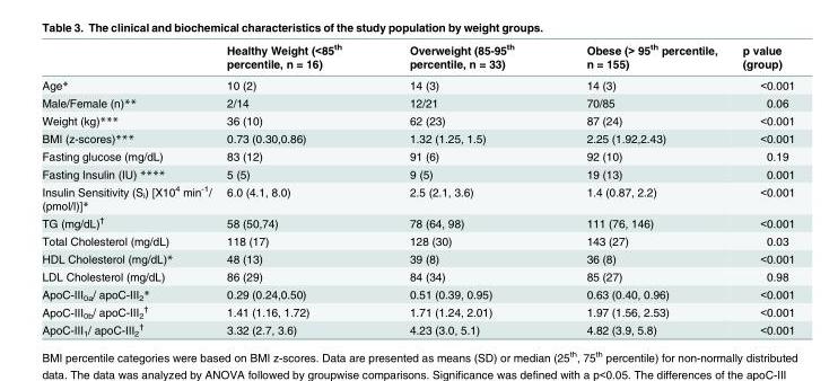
<table><thead><tr><td></td><td>Healthy Weight (&lt;85<sup>th</sup> percentile, n = 16)</td><td>Overweight (85-95<sup>th</sup> percentile, n = 33)</td><td>Obese (&gt; 95<sup>th</sup> percentile, n = 155)</td><td>p value (group)</td></tr></thead><tbody><tr><td>Age*</td><td>10 (2)</td><td>14 (3)</td><td>14 (3)</td><td>&lt;0.001</td></tr><tr><td>Male/Female (n)**</td><td>2/14</td><td>12/21</td><td>70/85</td><td>0.06</td></tr><tr><td>Weight (kg)***</td><td>36 (10)</td><td>62 (23)</td><td>87 (24)</td><td>&lt;0.001</td></tr><tr><td>BMI (z-scores)***</td><td>0.73 (0.30,0.86)</td><td>1.32 (1.25, 1.5)</td><td>2.25 (1.92,2.43)</td><td>&lt;0.001</td></tr><tr><td>Fasting glucose (mg/dL)</td><td>83 (12)</td><td>91 (6)</td><td>92 (10)</td><td>0.19</td></tr><tr><td>Fasting Insulin (IU) ****</td><td>5 (5)</td><td>9 (5)</td><td>19 (13)</td><td>0.001</td></tr><tr><td>Insulin Sensitivity (S<sub>i</sub>) [X10<sup>4</sup> min<sup>-1</sup>/ (pmol/l)]*</td><td>6.0 (4.1, 8.0)</td><td>2.5 (2.1, 3.6)</td><td>1.4 (0.87, 2.2)</td><td>&lt;0.001</td></tr><tr><td>TG (mg/dL)<sup>†</sup></td><td>58 (50,74)</td><td>78 (64, 98)</td><td>111 (76, 146)</td><td>&lt;0.001</td></tr><tr><td>Total Cholesterol (mg/dL)</td><td>118 (17)</td><td>128 (30)</td><td>143 (27)</td><td>0.03</td></tr><tr><td>HDL Cholesterol (mg/dL)*</td><td>48 (13)</td><td>39 (8)</td><td>36 (8)</td><td>&lt;0.001</td></tr><tr><td>LDL Cholesterol (mg/dL)</td><td>86 (29)</td><td>84 (34)</td><td>85 (27)</td><td>0.98</td></tr><tr><td>ApoC-III<sub>0a</sub>/ apoC-III<sub>2</sub>*</td><td>0.29 (0.24,0.50)</td><td>0.51 (0.39, 0.95)</td><td>0.63 (0.40, 0.96)</td><td>&lt;0.001</td></tr><tr><td>ApoC-III<sub>0b</sub>/ apoC-III<sub>2</sub> <sup>†</sup></td><td>1.41 (1.16, 1.72)</td><td>1.71 (1.24, 2.01)</td><td>1.97 (1.56, 2.53)</td><td>&lt;0.001</td></tr><tr><td>ApoC-III<sub>1</sub>/ apoC-III<sub>2</sub> <sup>†</sup></td><td>3.32 (2.7, 3.6)</td><td>4.23 (3.0, 5.1)</td><td>4.82 (3.9, 5.8)</td><td>&lt;0.001</td></tr></tbody></table>